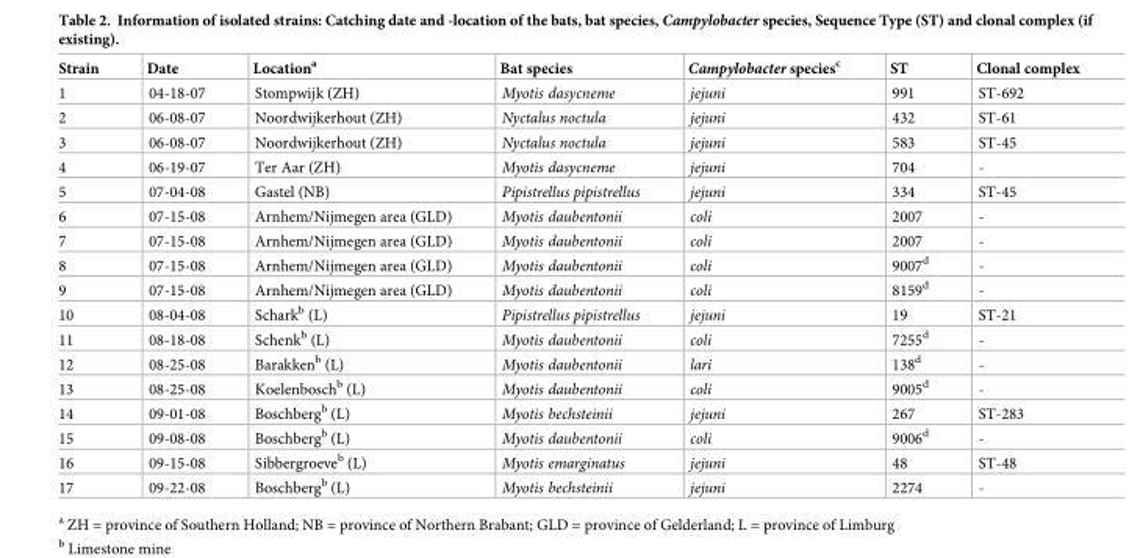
<table><thead><tr><td>Strain</td><td>Date</td><td>Location<sup>a</sup></td><td>Bat species</td><td>Campylobacter species<sup>c</sup></td><td>ST</td><td>Clonal complex</td></tr></thead><tbody><tr><td>1</td><td>04-18-07</td><td>Stompwijk (ZH)</td><td>Myotis dasycneme</td><td>jejuni</td><td>991</td><td>ST-692</td></tr><tr><td>2</td><td>06-08-07</td><td>Noordwijkerhout (ZH)</td><td>Nyctalus noctula</td><td>jejuni</td><td>432</td><td>ST-61</td></tr><tr><td>3</td><td>06-08-07</td><td>Noordwijkerhout (ZH)</td><td>Nyctalus noctula</td><td>jejuni</td><td>583</td><td>ST-45</td></tr><tr><td>4</td><td>06-19-07</td><td>Ter Aar (ZH)</td><td>Myotis dasycneme</td><td>jejuni</td><td>704</td><td>-</td></tr><tr><td>5</td><td>07-04-08</td><td>Gastel (NB)</td><td>Pipistrellus pipistrellus</td><td>jejuni</td><td>334</td><td>ST-45</td></tr><tr><td>6</td><td>07-15-08</td><td>Arnhem/Nijmegen area (GLD)</td><td>Myotis daubentonii</td><td>coli</td><td>2007</td><td>-</td></tr><tr><td>7</td><td>07-15-08</td><td>Arnhem/Nijmegen area (GLD)</td><td>Myotis daubentonii</td><td>coli</td><td>2007</td><td>-</td></tr><tr><td>8</td><td>07-15-08</td><td>Arnhem/Nijmegen area (GLD)</td><td>Myotis daubentonii</td><td>coli</td><td>9007<sup>d</sup></td><td>-</td></tr><tr><td>9</td><td>07-15-08</td><td>Arnhem/Nijmegen area (GLD)</td><td>Myotis daubentonii</td><td>coli</td><td>8159<sup>d</sup></td><td>-</td></tr><tr><td>10</td><td>08-04-08</td><td>Schark<sup>b</sup> (L)</td><td>Pipistrellus pipistrellus</td><td>jejuni</td><td>19</td><td>ST-21</td></tr><tr><td>11</td><td>08-18-08</td><td>Schenk<sup>b</sup> (L)</td><td>Myotis daubentonii</td><td>coli</td><td>7255<sup>d</sup></td><td>-</td></tr><tr><td>12</td><td>08-25-08</td><td>Barakken<sup>b</sup> (L)</td><td>Myotis daubentonii</td><td>lari</td><td>138<sup>d</sup></td><td>-</td></tr><tr><td>13</td><td>08-25-08</td><td>Koelenbosch<sup>b</sup> (L)</td><td>Myotis daubentonii</td><td>coli</td><td>9005<sup>d</sup></td><td>-</td></tr><tr><td>14</td><td>09-01-08</td><td>Boschberg<sup>b</sup> (L)</td><td>Myotis bechsteinii</td><td>jejuni</td><td>267</td><td>ST-283</td></tr><tr><td>15</td><td>09-08-08</td><td>Boschberg<sup>b</sup> (L)</td><td>Myotis daubentonii</td><td>coli</td><td>9006<sup>d</sup></td><td>-</td></tr><tr><td>16</td><td>09-15-08</td><td>Sibbergroeve<sup>b</sup> (L)</td><td>Myotis emarginatus</td><td>jejuni</td><td>48</td><td>ST-48</td></tr><tr><td>17</td><td>09-22-08</td><td>Boschberg<sup>b</sup> (L)</td><td>Myotis bechsteinii</td><td>jejuni</td><td>2274</td><td>-</td></tr></tbody></table>